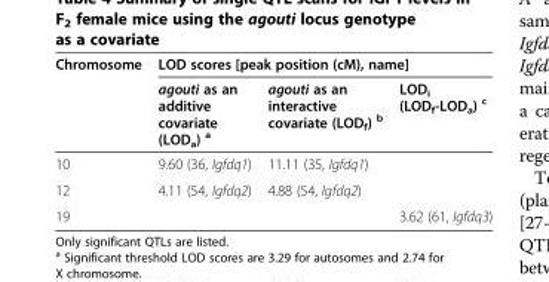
<table><thead><tr><td rowspan="2">Chromosome</td><td colspan="3">LOD scores [peak position (cM), name]</td></tr><tr><td>agouti as an additive covariate (LOD<sub>a</sub>) <sup>a</sup></td><td>agouti as an interactive covariate (LOD<sub>f</sub>) <sup>b</sup></td><td>LOD<sub>i</sub> (LOD<sub>f</sub>-LOD<sub>a</sub>) <sup>c</sup></td></tr></thead><tbody><tr><td>10</td><td>9.60 (36, Igfdq1)</td><td>11.11 (35, Igfdq1)</td><td></td></tr><tr><td>12</td><td>4.11 (54, Igfdq2)</td><td>4.88 (54, Igfdq2)</td><td></td></tr><tr><td>19</td><td></td><td></td><td>3.62 (61, Igfdq3)</td></tr></tbody></table>